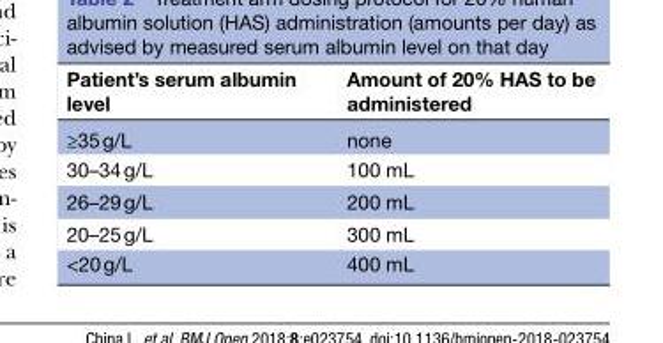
<table><thead><tr><td>Patient’s serum albumin level</td><td>Amount of 20% HAS to be administered</td></tr></thead><tbody><tr><td>≥35 g/L</td><td>none</td></tr><tr><td>30–34 g/L</td><td>100 mL</td></tr><tr><td>26–29 g/L</td><td>200 mL</td></tr><tr><td>20–25 g/L</td><td>300 mL</td></tr><tr><td>&lt;20 g/L</td><td>400 mL</td></tr></tbody></table>